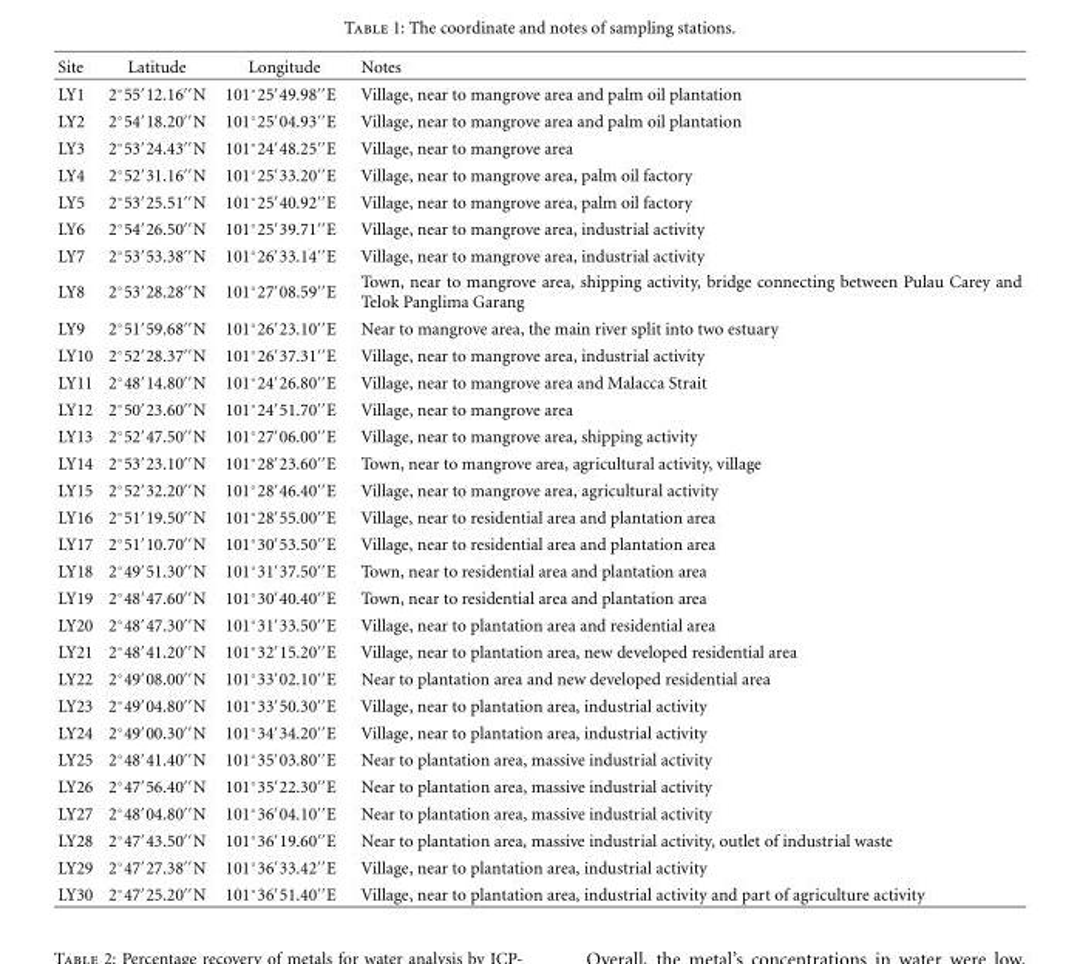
<table><thead><tr><td>Site</td><td>Latitude</td><td>Longitude</td><td>Notes</td></tr></thead><tbody><tr><td>LY1</td><td>2◦55′12.16′′N</td><td>101◦25′49.98′′E</td><td>Village, near to mangrove area and palm oil plantation</td></tr><tr><td>LY2</td><td>2◦54′18.20′′N</td><td>101◦25′04.93′′E</td><td>Village, near to mangrove area and palm oil plantation</td></tr><tr><td>LY3</td><td>2◦53′24.43′′N</td><td>101◦24′48.25′′E</td><td>Village, near to mangrove area</td></tr><tr><td>LY4</td><td>2◦52′31.16′′N</td><td>101◦25′33.20′′E</td><td>Village, near to mangrove area, palm oil factory</td></tr><tr><td>LY5</td><td>2◦53′25.51′′N</td><td>101◦25′40.92′′E</td><td>Village, near to mangrove area, palm oil factory</td></tr><tr><td>LY6</td><td>2◦54′26.50′′N</td><td>101◦25′39.71′′E</td><td>Village, near to mangrove area, industrial activity</td></tr><tr><td>LY7</td><td>2◦53′53.38′′N</td><td>101◦26′33.14′′E</td><td>Village, near to mangrove area, industrial activity</td></tr><tr><td>LY8</td><td>2◦53′28.28′′N</td><td>101◦27′08.59′′E</td><td>Town, near to mangrove area, shipping activity, bridge connecting between Pulau Carey and Telok Panglima Garang</td></tr><tr><td>LY9</td><td>2◦51′59.68′′N</td><td>101◦26′23.10′′E</td><td>Near to mangrove area, the main river split into two estuary</td></tr><tr><td>LY10</td><td>2◦52′28.37′′N</td><td>101◦26′37.31′′E</td><td>Village, near to mangrove area, industrial activity</td></tr><tr><td>LY11</td><td>2◦48′14.80′′N</td><td>101◦24′26.80′′E</td><td>Village, near to mangrove area and Malacca Strait</td></tr><tr><td>LY12</td><td>2◦50′23.60′′N</td><td>101◦24′51.70′′E</td><td>Village, near to mangrove area</td></tr><tr><td>LY13</td><td>2◦52′47.50′′N</td><td>101◦27′06.00′′E</td><td>Village, near to mangrove area, shipping activity</td></tr><tr><td>LY14</td><td>2◦53′23.10′′N</td><td>101◦28′23.60′′E</td><td>Town, near to mangrove area, agricultural activity, village</td></tr><tr><td>LY15</td><td>2◦52′32.20′′N</td><td>101◦28′46.40′′E</td><td>Village, near to mangrove area, agricultural activity</td></tr><tr><td>LY16</td><td>2◦51′19.50′′N</td><td>101◦28′55.00′′E</td><td>Village, near to residential area and plantation area</td></tr><tr><td>LY17</td><td>2◦51′10.70′′N</td><td>101◦30′53.50′′E</td><td>Village, near to residential area and plantation area</td></tr><tr><td>LY18</td><td>2◦49′51.30′′N</td><td>101◦31′37.50′′E</td><td>Town, near to residential area and plantation area</td></tr><tr><td>LY19</td><td>2◦48′47.60′′N</td><td>101◦30′40.40′′E</td><td>Town, near to residential area and plantation area</td></tr><tr><td>LY20</td><td>2◦48′47.30′′N</td><td>101◦31′33.50′′E</td><td>Village, near to plantation area and residential area</td></tr><tr><td>LY21</td><td>2◦48′41.20′′N</td><td>101◦32′15.20′′E</td><td>Village, near to plantation area, new developed residential area</td></tr><tr><td>LY22</td><td>2◦49′08.00′′N</td><td>101◦33′02.10′′E</td><td>Near to plantation area and new developed residential area</td></tr><tr><td>LY23</td><td>2◦49′04.80′′N</td><td>101◦33′50.30′′E</td><td>Village, near to plantation area, industrial activity</td></tr><tr><td>LY24</td><td>2◦49′00.30′′N</td><td>101◦34′34.20′′E</td><td>Village, near to plantation area, industrial activity</td></tr><tr><td>LY25</td><td>2◦48′41.40′′N</td><td>101◦35′03.80′′E</td><td>Near to plantation area, massive industrial activity</td></tr><tr><td>LY26</td><td>2◦47′56.40′′N</td><td>101◦35′22.30′′E</td><td>Near to plantation area, massive industrial activity</td></tr><tr><td>LY27</td><td>2◦48′04.80′′N</td><td>101◦36′04.10′′E</td><td>Near to plantation area, massive industrial activity</td></tr><tr><td>LY28</td><td>2◦47′43.50′′N</td><td>101◦36′19.60′′E</td><td>Near to plantation area, massive industrial activity, outlet of industrial waste</td></tr><tr><td>LY29</td><td>2◦47′27.38′′N</td><td>101◦36′33.42′′E</td><td>Village, near to plantation area, industrial activity</td></tr><tr><td>LY30</td><td>2◦47′25.20′′N</td><td>101◦36′51.40′′E</td><td>Village, near to plantation area, industrial activity and part of agriculture activity</td></tr></tbody></table>